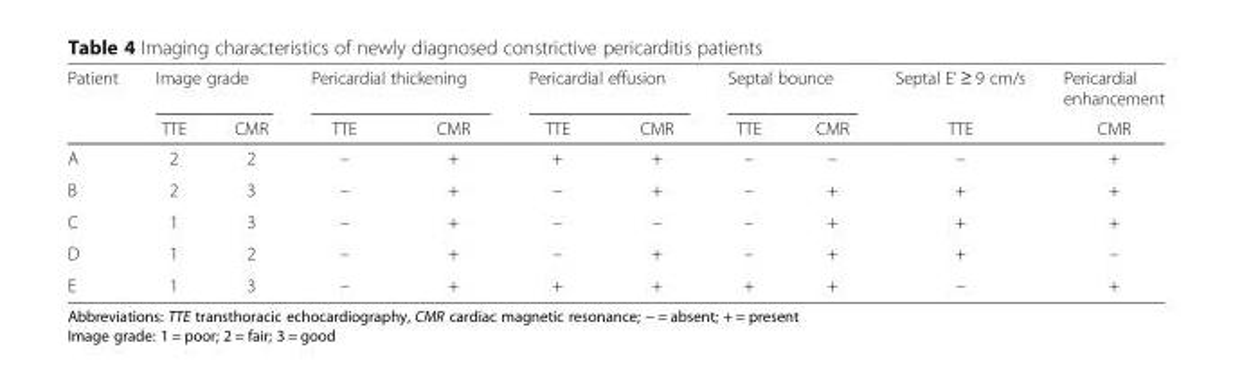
<table><thead><tr><td rowspan="2">Patient</td><td colspan="2">Image grade</td><td colspan="2">Pericardial thickening</td><td colspan="2">Pericardial effusion</td><td colspan="2">Septal bounce</td><td rowspan="2">Septal E’ ≥ 9 cm/s TTE</td><td rowspan="2">Pericardial enhancement CMR</td></tr><tr><td>TTE</td><td>CMR</td><td>TTE</td><td>CMR</td><td>TTE</td><td>CMR</td><td>TTE</td><td>CMR</td></tr></thead><tbody><tr><td>A</td><td>2</td><td>2</td><td>–</td><td>+</td><td>+</td><td>+</td><td>–</td><td>–</td><td>–</td><td>+</td></tr><tr><td>B</td><td>2</td><td>3</td><td>–</td><td>+</td><td>–</td><td>+</td><td>–</td><td>+</td><td>+</td><td>+</td></tr><tr><td>C</td><td>1</td><td>3</td><td>–</td><td>+</td><td>–</td><td>–</td><td>–</td><td>+</td><td>+</td><td>+</td></tr><tr><td>D</td><td>1</td><td>2</td><td>–</td><td>+</td><td>–</td><td>+</td><td>–</td><td>+</td><td>+</td><td>–</td></tr><tr><td>E</td><td>1</td><td>3</td><td>–</td><td>+</td><td>+</td><td>+</td><td>+</td><td>+</td><td>–</td><td>+</td></tr></tbody></table>